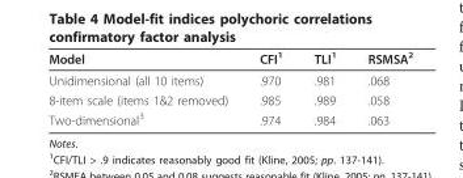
<table><thead><tr><td>Model</td><td>CFI<sup>1</sup></td><td>TLI<sup>1</sup></td><td>RSMSA<sup>2</sup></td></tr></thead><tbody><tr><td>Unidimensional (all 10 items)</td><td>.970</td><td>.981</td><td>.068</td></tr><tr><td>8-item scale (items 1&amp;2 removed)</td><td>.985</td><td>.989</td><td>.058</td></tr><tr><td>Two-dimensional<sup>3</sup></td><td>.974</td><td>.984</td><td>.063</td></tr></tbody></table>